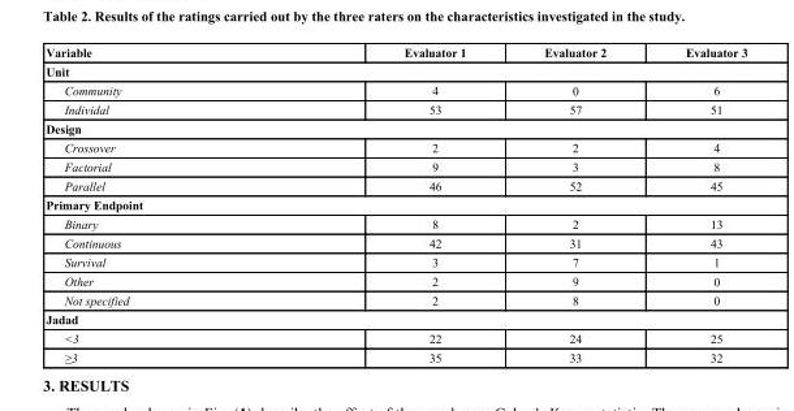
<table><thead><tr><td>Variable</td><td>Evaluator 1</td><td>Evaluator 2</td><td>Evaluator 3</td></tr></thead><tbody><tr><td colspan="4">Unit</td></tr><tr><td>Community</td><td>4</td><td>0</td><td>6</td></tr><tr><td>Individal</td><td>53</td><td>57</td><td>51</td></tr><tr><td colspan="4">Design</td></tr><tr><td>Crossover</td><td>2</td><td>2</td><td>4</td></tr><tr><td>Factorial</td><td>9</td><td>3</td><td>8</td></tr><tr><td>Parallel</td><td>46</td><td>52</td><td>45</td></tr><tr><td colspan="4">Primary Endpoint</td></tr><tr><td>Binary</td><td>8</td><td>2</td><td>13</td></tr><tr><td>Continuous</td><td>42</td><td>31</td><td>43</td></tr><tr><td>Survival</td><td>3</td><td>7</td><td>1</td></tr><tr><td>Other</td><td>2</td><td>9</td><td>0</td></tr><tr><td>Not specified</td><td>2</td><td>8</td><td>0</td></tr><tr><td colspan="4">Jadad</td></tr><tr><td>&lt;3</td><td>22</td><td>24</td><td>25</td></tr><tr><td>≥3</td><td>35</td><td>33</td><td>32</td></tr></tbody></table>